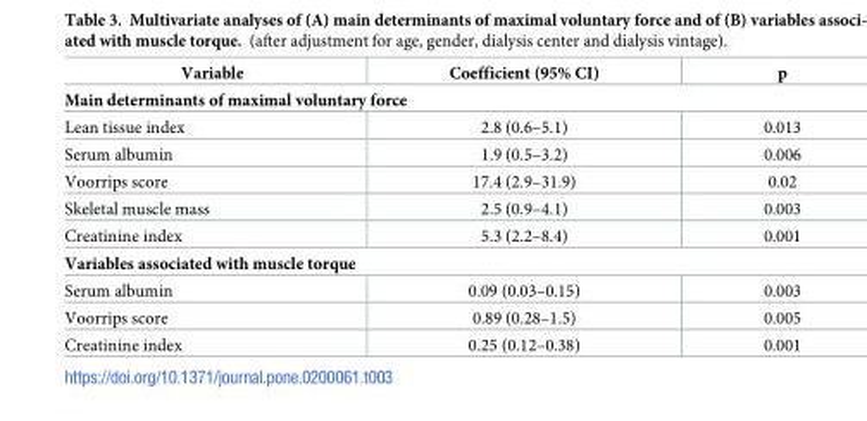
<table><thead><tr><td>Variable</td><td>Coefficient (95% CI)</td><td>p</td></tr></thead><tbody><tr><td colspan="3">Main determinants of maximal voluntary force</td></tr><tr><td>Lean tissue index</td><td>2.8 (0.6–5.1)</td><td>0.013</td></tr><tr><td>Serum albumin</td><td>1.9 (0.5–3.2)</td><td>0.006</td></tr><tr><td>Voorrips score</td><td>17.4 (2.9–31.9)</td><td>0.02</td></tr><tr><td>Skeletal muscle mass</td><td>2.5 (0.9–4.1)</td><td>0.003</td></tr><tr><td>Creatinine index</td><td>5.3 (2.2–8.4)</td><td>0.001</td></tr><tr><td colspan="3">Variables associated with muscle torque</td></tr><tr><td>Serum albumin</td><td>0.09 (0.03–0.15)</td><td>0.003</td></tr><tr><td>Voorrips score</td><td>0.89 (0.28–1.5)</td><td>0.005</td></tr><tr><td>Creatinine index</td><td>0.25 (0.12–0.38)</td><td>0.001</td></tr></tbody></table>